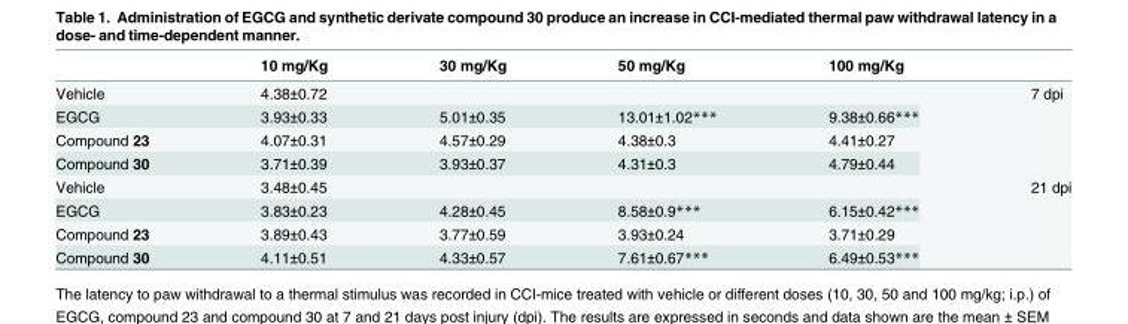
<table><thead><tr><td></td><td>10 mg/Kg</td><td>30 mg/Kg</td><td>50 mg/Kg</td><td>100 mg/Kg</td><td></td></tr></thead><tbody><tr><td>Vehicle</td><td colspan="4">4.38±0.72</td><td rowspan="4">7 dpi</td></tr><tr><td>EGCG</td><td>3.93±0.33</td><td>5.01±0.35</td><td>13.01±1.02***</td><td>9.38±0.66***</td></tr><tr><td>Compound 23</td><td>4.07±0.31</td><td>4.57±0.29</td><td>4.38±0.3</td><td>4.41±0.27</td></tr><tr><td>Compound 30</td><td>3.71±0.39</td><td>3.93±0.37</td><td>4.31±0.3</td><td>4.79±0.44</td></tr><tr><td>Vehicle</td><td colspan="4">3.48±0.45</td><td rowspan="4">21 dpi</td></tr><tr><td>EGCG</td><td>3.83±0.23</td><td>4.28±0.45</td><td>8.58±0.9***</td><td>6.15±0.42***</td></tr><tr><td>Compound 23</td><td>3.89±0.43</td><td>3.77±0.59</td><td>3.93±0.24</td><td>3.71±0.29</td></tr><tr><td>Compound 30</td><td>4.11±0.51</td><td>4.33±0.57</td><td>7.61±0.67***</td><td>6.49±0.53***</td></tr></tbody></table>